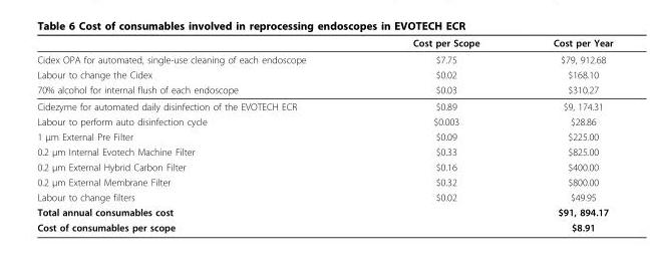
<table><thead><tr><td></td><td>Cost per Scope</td><td>Cost per Year</td></tr></thead><tbody><tr><td>Cidex OPA for automated, single-use cleaning of each endoscope</td><td>$7.75</td><td>$79, 912.68</td></tr><tr><td>Labour to change the Cidex</td><td>$0.02</td><td>$168.10</td></tr><tr><td>70% alcohol for internal flush of each endoscope</td><td>$0.03</td><td>$310.27</td></tr><tr><td>Cidezyme for automated daily disinfection of the EVOTECH ECR</td><td>$0.89</td><td>$9, 174.31</td></tr><tr><td>Labour to perform auto disinfection cycle</td><td>$0.003</td><td>$28.86</td></tr><tr><td>1 μm External Pre Filter</td><td>$0.09</td><td>$225.00</td></tr><tr><td>0.2 μm Internal Evotech Machine Filter</td><td>$0.33</td><td>$825.00</td></tr><tr><td>0.2 μm External Hybrid Carbon Filter</td><td>$0.16</td><td>$400.00</td></tr><tr><td>0.2 μm External Membrane Filter</td><td>$0.32</td><td>$800.00</td></tr><tr><td>Labour to change filters</td><td>$0.02</td><td>$49.95</td></tr><tr><td>Total annual consumables cost</td><td></td><td>$91, 894.17</td></tr><tr><td>Cost of consumables per scope</td><td></td><td>$8.91</td></tr></tbody></table>